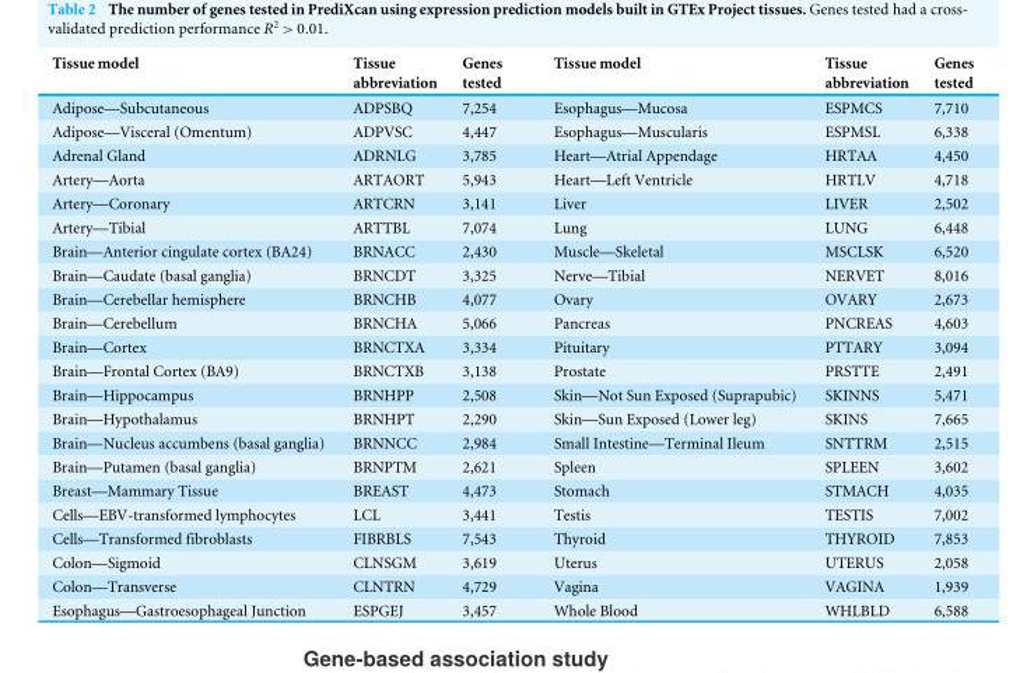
<table><thead><tr><td>Tissue model</td><td>Tissue abbreviation</td><td>Genes tested</td><td>Tissue model</td><td>Tissue abbreviation</td><td>Genes tested</td></tr></thead><tbody><tr><td>Adipose—Subcutaneous</td><td>ADPSBQ</td><td>7,254</td><td>Esophagus—Mucosa</td><td>ESPMCS</td><td>7,710</td></tr><tr><td>Adipose—Visceral (Omentum)</td><td>ADPVSC</td><td>4,447</td><td>Esophagus—Muscularis</td><td>ESPMSL</td><td>6,338</td></tr><tr><td>Adrenal Gland</td><td>ADRNLG</td><td>3,785</td><td>Heart—Atrial Appendage</td><td>HRTAA</td><td>4,450</td></tr><tr><td>Artery—Aorta</td><td>ARTAORT</td><td>5,943</td><td>Heart—Left Ventricle</td><td>HRTLV</td><td>4,718</td></tr><tr><td>Artery—Coronary</td><td>ARTCRN</td><td>3,141</td><td>Liver</td><td>LIVER</td><td>2,502</td></tr><tr><td>Artery—Tibial</td><td>ARTTBL</td><td>7,074</td><td>Lung</td><td>LUNG</td><td>6,448</td></tr><tr><td>Brain—Anterior cingulate cortex (BA24)</td><td>BRNACC</td><td>2,430</td><td>Muscle—Skeletal</td><td>MSCLSK</td><td>6,520</td></tr><tr><td>Brain—Caudate (basal ganglia)</td><td>BRNCDT</td><td>3,325</td><td>Nerve—Tibial</td><td>NERVET</td><td>8,016</td></tr><tr><td>Brain—Cerebellar hemisphere</td><td>BRNCHB</td><td>4,077</td><td>Ovary</td><td>OVARY</td><td>2,673</td></tr><tr><td>Brain—Cerebellum</td><td>BRNCHA</td><td>5,066</td><td>Pancreas</td><td>PNCREAS</td><td>4,603</td></tr><tr><td>Brain—Cortex</td><td>BRNCTXA</td><td>3,334</td><td>Pituitary</td><td>PTTARY</td><td>3,094</td></tr><tr><td>Brain—Frontal Cortex (BA9)</td><td>BRNCTXB</td><td>3,138</td><td>Prostate</td><td>PRSTTE</td><td>2,491</td></tr><tr><td>Brain—Hippocampus</td><td>BRNHPP</td><td>2,508</td><td>Skin—Not Sun Exposed (Suprapubic)</td><td>SKINNS</td><td>5,471</td></tr><tr><td>Brain—Hypothalamus</td><td>BRNHPT</td><td>2,290</td><td>Skin—Sun Exposed (Lower leg)</td><td>SKINS</td><td>7,665</td></tr><tr><td>Brain—Nucleus accumbens (basal ganglia)</td><td>BRNNCC</td><td>2,984</td><td>Small Intestine—Terminal Ileum</td><td>SNTTRM</td><td>2,515</td></tr><tr><td>Brain—Putamen (basal ganglia)</td><td>BRNPTM</td><td>2,621</td><td>Spleen</td><td>SPLEEN</td><td>3,602</td></tr><tr><td>Breast—Mammary Tissue</td><td>BREAST</td><td>4,473</td><td>Stomach</td><td>STMACH</td><td>4,035</td></tr><tr><td>Cells—EBV-transformed lymphocytes</td><td>LCL</td><td>3,441</td><td>Testis</td><td>TESTIS</td><td>7,002</td></tr><tr><td>Cells—Transformed fibroblasts</td><td>FIBRBLS</td><td>7,543</td><td>Thyroid</td><td>THYROID</td><td>7,853</td></tr><tr><td>Colon—Sigmoid</td><td>CLNSGM</td><td>3,619</td><td>Uterus</td><td>UTERUS</td><td>2,058</td></tr><tr><td>Colon—Transverse</td><td>CLNTRN</td><td>4,729</td><td>Vagina</td><td>VAGINA</td><td>1,939</td></tr><tr><td>Esophagus—Gastroesophageal Junction</td><td>ESPGEJ</td><td>3,457</td><td>Whole Blood</td><td>WHLBLD</td><td>6,588</td></tr></tbody></table>